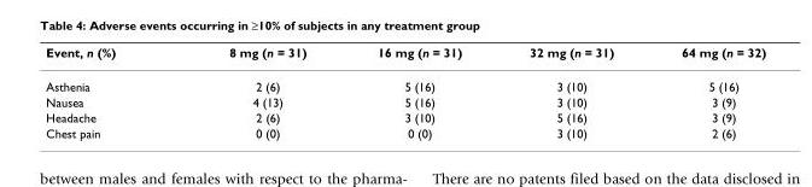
<table><thead><tr><td>Event, n (%)</td><td>8 mg (n = 31)</td><td>16 mg (n = 31)</td><td>32 mg (n = 31)</td><td>64 mg (n = 32)</td></tr></thead><tbody><tr><td>Asthenia</td><td>2 (6)</td><td>5 (16)</td><td>3 (10)</td><td>5 (16)</td></tr><tr><td>Nausea</td><td>4 (13)</td><td>5 (16)</td><td>3 (10)</td><td>3 (9)</td></tr><tr><td>Headache</td><td>2 (6)</td><td>3 (10)</td><td>5 (16)</td><td>3 (9)</td></tr><tr><td>Chest pain</td><td>0 (0)</td><td>0 (0)</td><td>3 (10)</td><td>2 (6)</td></tr></tbody></table>